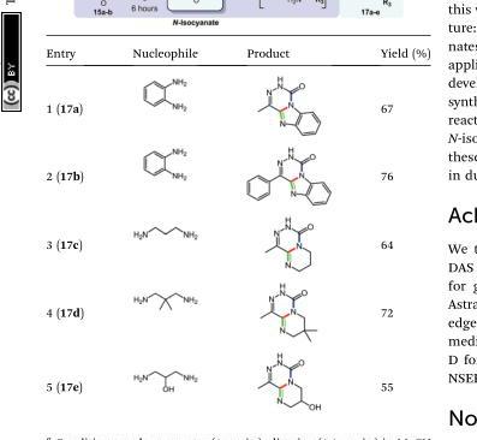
<table><thead><tr><td>Entry</td><td>Nucleophile</td><td>Product</td><td>Yield (%)</td></tr></thead><tbody><tr><td>1 (17a)</td><td></td><td></td><td>67</td></tr><tr><td>2 (17b)</td><td></td><td></td><td>76</td></tr><tr><td>3 (17c)</td><td></td><td></td><td>64</td></tr><tr><td>4 (17d)</td><td></td><td></td><td>72</td></tr><tr><td>5 (17e)</td><td></td><td></td><td>55</td></tr></tbody></table>